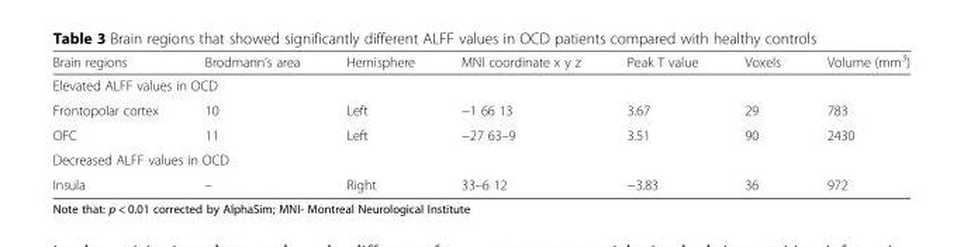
<table><thead><tr><td>Brain regions</td><td>Brodmann’s area</td><td>Hemisphere</td><td>MNI coordinate x y z</td><td>Peak T value</td><td>Voxels</td><td>Volume (mm<sup>3</sup>)</td></tr></thead><tbody><tr><td colspan="7">Elevated ALFF values in OCD</td></tr><tr><td>Frontopolar cortex</td><td>10</td><td>Left</td><td>−1 66 13</td><td>3.67</td><td>29</td><td>783</td></tr><tr><td>OFC</td><td>11</td><td>Left</td><td>−27 63–9</td><td>3.51</td><td>90</td><td>2430</td></tr><tr><td colspan="7">Decreased ALFF values in OCD</td></tr><tr><td>Insula</td><td>–</td><td>Right</td><td>33–6 12</td><td>−3.83</td><td>36</td><td>972</td></tr></tbody></table>